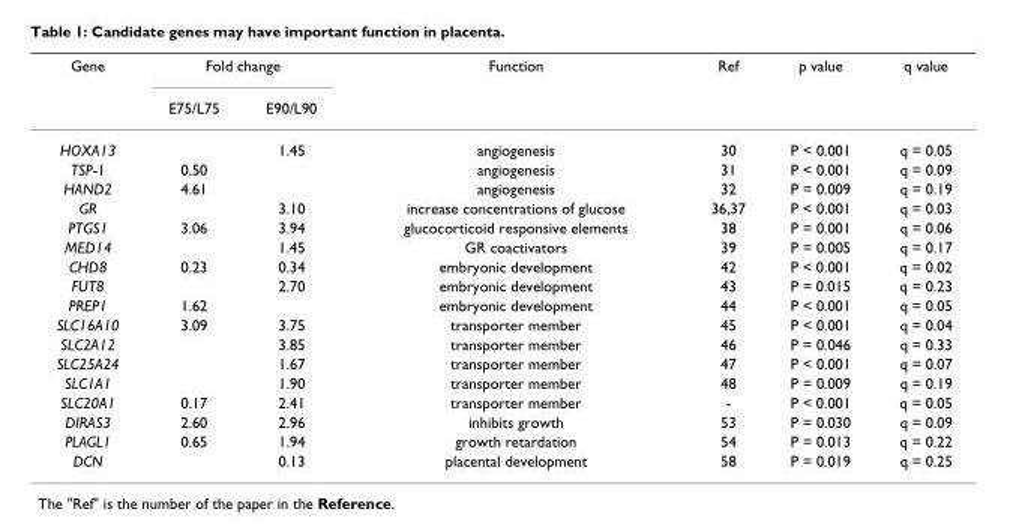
<table><thead><tr><td rowspan="2">Gene</td><td colspan="2">Fold change</td><td rowspan="2">Function</td><td rowspan="2">Ref</td><td rowspan="2">p value</td><td rowspan="2">q value</td></tr><tr><td>E75/L75</td><td>E90/L90</td></tr></thead><tbody><tr><td>HOXA13</td><td></td><td>1.45</td><td>angiogenesis</td><td>30</td><td>P &lt; 0.001</td><td>q = 0.05</td></tr><tr><td>TSP-1</td><td>0.50</td><td></td><td>angiogenesis</td><td>31</td><td>P &lt; 0.001</td><td>q = 0.09</td></tr><tr><td>HAND2</td><td>4.61</td><td></td><td>angiogenesis</td><td>32</td><td>P = 0.009</td><td>q = 0.19</td></tr><tr><td>GR</td><td></td><td>3.10</td><td>increase concentrations of glucose</td><td>36,37</td><td>P &lt; 0.001</td><td>q = 0.03</td></tr><tr><td>PTGS1</td><td>3.06</td><td>3.94</td><td>glucocorticoid responsive elements</td><td>38</td><td>P = 0.001</td><td>q = 0.06</td></tr><tr><td>MED14</td><td></td><td>1.45</td><td>GR coactivators</td><td>39</td><td>P = 0.005</td><td>q = 0.17</td></tr><tr><td>CHD8</td><td>0.23</td><td>0.34</td><td>embryonic development</td><td>42</td><td>P &lt; 0.001</td><td>q = 0.02</td></tr><tr><td>FUT8</td><td></td><td>2.70</td><td>embryonic development</td><td>43</td><td>P = 0.015</td><td>q = 0.23</td></tr><tr><td>PREP1</td><td>1.62</td><td></td><td>embryonic development</td><td>44</td><td>P &lt; 0.001</td><td>q = 0.05</td></tr><tr><td>SLC16A10</td><td>3.09</td><td>3.75</td><td>transporter member</td><td>45</td><td>P &lt; 0.001</td><td>q = 0.04</td></tr><tr><td>SLC2A12</td><td></td><td>3.85</td><td>transporter member</td><td>46</td><td>P = 0.046</td><td>q = 0.33</td></tr><tr><td>SLC25A24</td><td></td><td>1.67</td><td>transporter member</td><td>47</td><td>P &lt; 0.001</td><td>q = 0.07</td></tr><tr><td>SLC1A1</td><td></td><td>1.90</td><td>transporter member</td><td>48</td><td>P = 0.009</td><td>q = 0.19</td></tr><tr><td>SLC20A1</td><td>0.17</td><td>2.41</td><td>transporter member</td><td>-</td><td>P &lt; 0.001</td><td>q = 0.05</td></tr><tr><td>DIRAS3</td><td>2.60</td><td>2.96</td><td>inhibits growth</td><td>53</td><td>P = 0.030</td><td>q = 0.09</td></tr><tr><td>PLAGL1</td><td>0.65</td><td>1.94</td><td>growth retardation</td><td>54</td><td>P = 0.013</td><td>q = 0.22</td></tr><tr><td>DCN</td><td></td><td>0.13</td><td>placental development</td><td>58</td><td>P = 0.019</td><td>q = 0.25</td></tr></tbody></table>